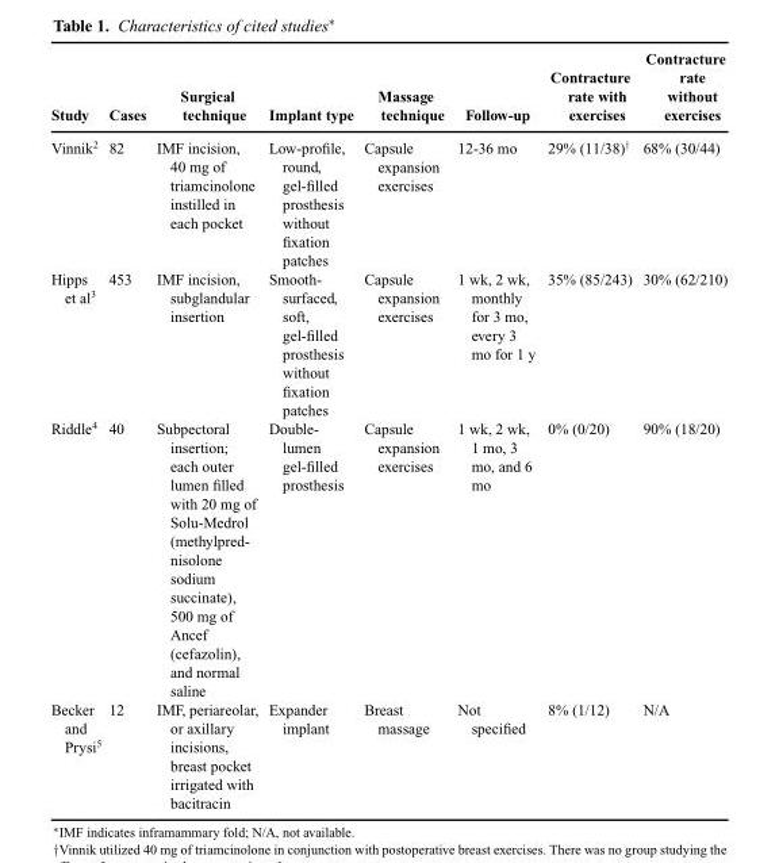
<table><thead><tr><td>Study</td><td>Cases</td><td>Surgical technique</td><td>Implant type</td><td>Massage technique</td><td>Follow-up</td><td>Contracture rate with exercises</td><td>Contracture rate without exercises</td></tr></thead><tbody><tr><td>Vinnik<sup>2</sup></td><td>82</td><td>IMF incision, 40 mg of triamcinolone instilled in each pocket</td><td>Low-profile, round, gel-filled prosthesis without fixation patches</td><td>Capsule expansion exercises</td><td>12-36 mo</td><td>29% (11/38)<sup>†</sup></td><td>68% (30/44)</td></tr><tr><td>Hipps et al<sup>3</sup></td><td>453</td><td>IMF incision, subglandular insertion</td><td>Smooth- surfaced, soft, gel-filled prosthesis without fixation patches</td><td>Capsule expansion exercises</td><td>1 wk, 2 wk, monthly for 3 mo, every 3 mo for 1 y</td><td>35% (85/243)</td><td>30% (62/210)</td></tr><tr><td>Riddle<sup>4</sup></td><td>40</td><td>Subpectoral insertion; each outer lumen filled with 20 mg of Solu-Medrol (methylpred- nisolone sodium succinate), 500 mg of Ancef (cefazolin), and normal saline</td><td>Double- lumen gel-filled prosthesis</td><td>Capsule expansion exercises</td><td>1 wk, 2 wk, 1 mo, 3 mo, and 6 mo</td><td>0% (0/20)</td><td>90% (18/20)</td></tr><tr><td>Becker and Prysi<sup>5</sup></td><td>12</td><td>IMF, periareolar, or axillary incisions, breast pocket irrigated with bacitracin</td><td>Expander implant</td><td>Breast massage</td><td>Not specified</td><td>8% (1/12)</td><td>N/A</td></tr></tbody></table>